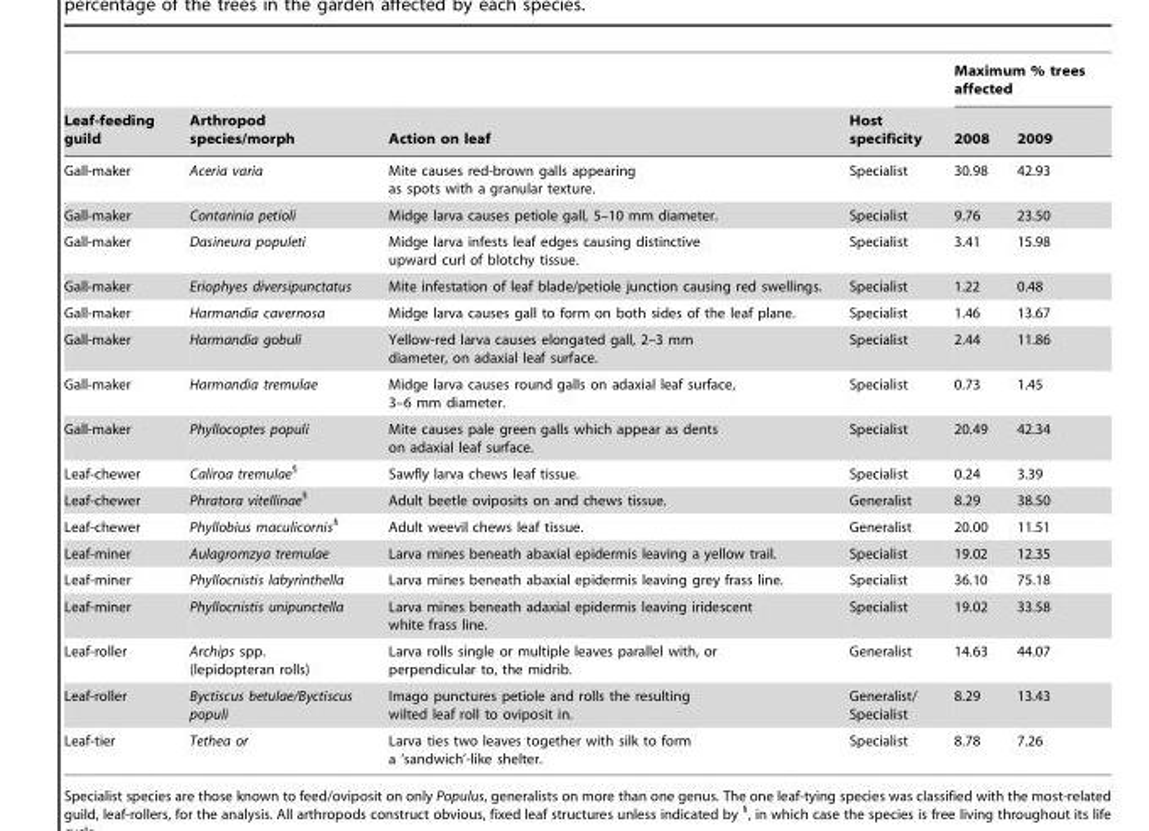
<table><thead><tr><td rowspan="2">Leaf-feeding guild</td><td rowspan="2">Arthropod species/morph</td><td rowspan="2">Action on leaf</td><td rowspan="2">Host specificity</td><td colspan="2">Maximum % trees affected</td></tr><tr><td>2008</td><td>2009</td></tr></thead><tbody><tr><td>Gall-maker</td><td>Aceria varia</td><td>Mite causes red-brown galls appearing as spots with a granular texture.</td><td>Specialist</td><td>30.98</td><td>42.93</td></tr><tr><td>Gall-maker</td><td>Contarinia petioli</td><td>Midge larva causes petiole gall, 5–10 mm diameter.</td><td>Specialist</td><td>9.76</td><td>23.50</td></tr><tr><td>Gall-maker</td><td>Dasineura populeti</td><td>Midge larva infests leaf edges causing distinctive upward curl of blotchy tissue.</td><td>Specialist</td><td>3.41</td><td>15.98</td></tr><tr><td>Gall-maker</td><td>Eriophyes diversipunctatus</td><td>Mite infestation of leaf blade/petiole junction causing red swellings.</td><td>Specialist</td><td>1.22</td><td>0.48</td></tr><tr><td>Gall-maker</td><td>Harmandia cavernosa</td><td>Midge larva causes gall to form on both sides of the leaf plane.</td><td>Specialist</td><td>1.46</td><td>13.67</td></tr><tr><td>Gall-maker</td><td>Harmandia gobuli</td><td>Yellow-red larva causes elongated gall, 2–3 mm diameter, on adaxial leaf surface.</td><td>Specialist</td><td>2.44</td><td>11.86</td></tr><tr><td>Gall-maker</td><td>Harmandia tremulae</td><td>Midge larva causes round galls on adaxial leaf surface, 3–6 mm diameter.</td><td>Specialist</td><td>0.73</td><td>1.45</td></tr><tr><td>Gall-maker</td><td>Phyllocoptes populi</td><td>Mite causes pale green galls which appear as dents on adaxial leaf surface.</td><td>Specialist</td><td>20.49</td><td>42.34</td></tr><tr><td>Leaf-chewer</td><td>Caliroa tremulae<sup>§</sup></td><td>Sawfly larva chews leaf tissue.</td><td>Specialist</td><td>0.24</td><td>3.39</td></tr><tr><td>Leaf-chewer</td><td>Phratora vitellinae<sup>§</sup></td><td>Adult beetle oviposits on and chews tissue.</td><td>Generalist</td><td>8.29</td><td>38.50</td></tr><tr><td>Leaf-chewer</td><td>Phyllobius maculicornis<sup>§</sup></td><td>Adult weevil chews leaf tissue.</td><td>Generalist</td><td>20.00</td><td>11.51</td></tr><tr><td>Leaf-miner</td><td>Aulagromzya tremulae</td><td>Larva mines beneath abaxial epidermis leaving a yellow trail.</td><td>Specialist</td><td>19.02</td><td>12.35</td></tr><tr><td>Leaf-miner</td><td>Phyllocnistis labyrinthella</td><td>Larva mines beneath abaxial epidermis leaving grey frass line.</td><td>Specialist</td><td>36.10</td><td>75.18</td></tr><tr><td>Leaf-miner</td><td>Phyllocnistis unipunctella</td><td>Larva mines beneath adaxial epidermis leaving iridescent white frass line.</td><td>Specialist</td><td>19.02</td><td>33.58</td></tr><tr><td>Leaf-roller</td><td>Archips spp. (lepidopteran rolls)</td><td>Larva rolls single or multiple leaves parallel with, or perpendicular to, the midrib.</td><td>Generalist</td><td>14.63</td><td>44.07</td></tr><tr><td>Leaf-roller</td><td>Byctiscus betulae/Byctiscus populi</td><td>Imago punctures petiole and rolls the resulting wilted leaf roll to oviposit in.</td><td>Generalist/ Specialist</td><td>8.29</td><td>13.43</td></tr><tr><td>Leaf-tier</td><td>Tethea or</td><td>Larva ties two leaves together with silk to form a ‘sandwich’-like shelter.</td><td>Specialist</td><td>8.78</td><td>7.26</td></tr></tbody></table>